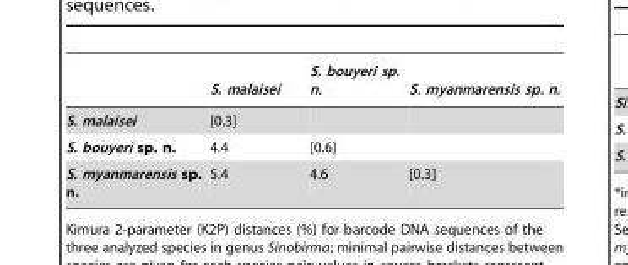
<table><thead><tr><td></td><td>S. malaisei</td><td>S. bouyeri sp. n.</td><td>S. myanmarensis sp. n.</td></tr></thead><tbody><tr><td>S. malaisei</td><td>[0.3]</td><td></td><td></td></tr><tr><td>S. bouyeri sp. n.</td><td>4.4</td><td>[0.6]</td><td></td></tr><tr><td>S. myanmarensis sp. n.</td><td>5.4</td><td>4.6</td><td>[0.3]</td></tr></tbody></table>